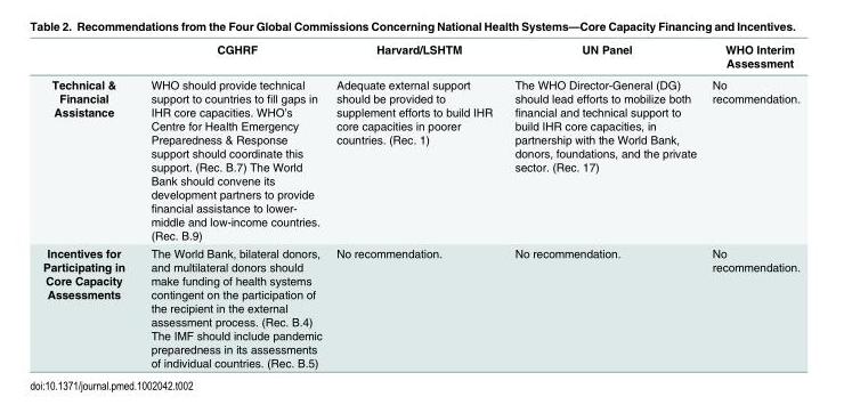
<table><thead><tr><td></td><td>CGHRF</td><td>Harvard/LSHTM</td><td>UN Panel</td><td>WHO Interim Assessment</td></tr></thead><tbody><tr><td>Technical &amp; Financial Assistance</td><td>WHO should provide technical support to countries to fill gaps in IHR core capacities. WHO’s Centre for Health Emergency Preparedness &amp; Response support should coordinate this support. (Rec. B.7) The World Bank should convene its development partners to provide financial assistance to lower- middle and low-income countries. (Rec. B.9)</td><td>Adequate external support should be provided to supplement efforts to build IHR core capacities in poorer countries. (Rec. 1)</td><td>The WHO Director-General (DG) should lead efforts to mobilize both financial and technical support to build IHR core capacities, in partnership with the World Bank, donors, foundations, and the private sector. (Rec. 17)</td><td>No recommendation.</td></tr><tr><td>Incentives for Participating in Core Capacity Assessments</td><td>The World Bank, bilateral donors, and multilateral donors should make funding of health systems contingent on the participation of the recipient in the external assessment process. (Rec. B.4) The IMF should include pandemic preparedness in its assessments of individual countries. (Rec. B.5)</td><td>No recommendation.</td><td>No recommendation.</td><td>No recommendation.</td></tr></tbody></table>